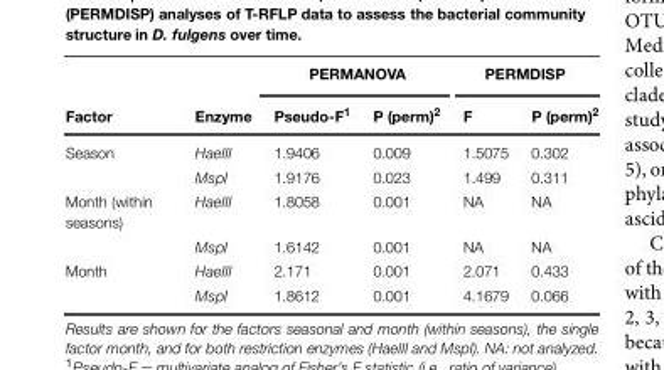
<table><thead><tr><td rowspan="2">Factor</td><td rowspan="2">Enzyme</td><td colspan="2">PERMANOVA</td><td colspan="2">PERMDISP</td></tr><tr><td>Pseudo-F<sup>1</sup></td><td>P (perm)<sup>2</sup></td><td>F</td><td>P (perm)<sup>2</sup></td></tr></thead><tbody><tr><td rowspan="2">Season</td><td>HaeIII</td><td>1.9406</td><td>0.009</td><td>1.5075</td><td>0.302</td></tr><tr><td>MspI</td><td>1.9176</td><td>0.023</td><td>1.499</td><td>0.311</td></tr><tr><td rowspan="2">Month (within seasons)</td><td>HaeIII</td><td>1.8058</td><td>0.001</td><td>NA</td><td>NA</td></tr><tr><td>MspI</td><td>1.6142</td><td>0.001</td><td>NA</td><td>NA</td></tr><tr><td rowspan="2">Month</td><td>HaeIII</td><td>2.171</td><td>0.001</td><td>2.071</td><td>0.433</td></tr><tr><td>MspI</td><td>1.8612</td><td>0.001</td><td>4.1679</td><td>0.066</td></tr></tbody></table>